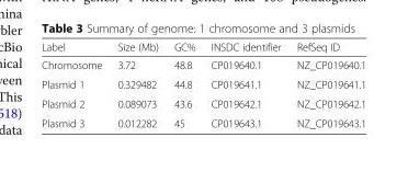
<table><thead><tr><td>Label</td><td>Size (Mb)</td><td>GC%</td><td>INSDC identifier</td><td>RefSeq ID</td></tr></thead><tbody><tr><td>Chromosome</td><td>3.72</td><td>48.8</td><td>CP019640.1</td><td>NZ_CP019640.1</td></tr><tr><td>Plasmid 1</td><td>0.329482</td><td>44.8</td><td>CP019641.1</td><td>NZ_CP019641.1</td></tr><tr><td>Plasmid 2</td><td>0.089073</td><td>43.6</td><td>CP019642.1</td><td>NZ_CP019642.1</td></tr><tr><td>Plasmid 3</td><td>0.012282</td><td>45</td><td>CP019643.1</td><td>NZ_CP019643.1</td></tr></tbody></table>